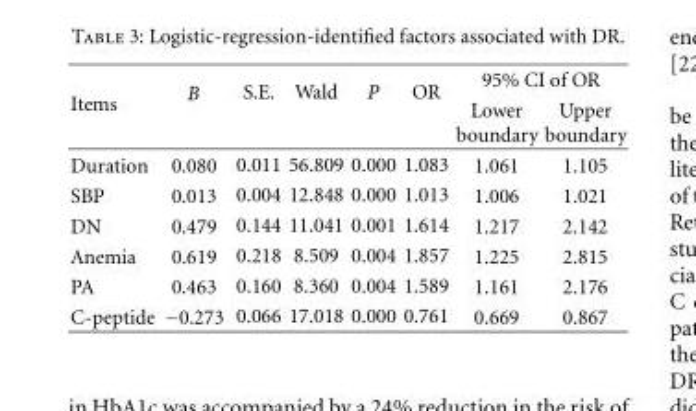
<table><thead><tr><td rowspan="2">Items</td><td rowspan="2">B</td><td rowspan="2">S.E.</td><td rowspan="2">Wald</td><td rowspan="2">P</td><td rowspan="2">OR</td><td colspan="2">95% CI of OR</td></tr><tr><td>Lower boundary</td><td>Upper boundary</td></tr></thead><tbody><tr><td>Duration</td><td>0.080</td><td>0.011</td><td>56.809</td><td>0.000</td><td>1.083</td><td>1.061</td><td>1.105</td></tr><tr><td>SBP</td><td>0.013</td><td>0.004</td><td>12.848</td><td>0.000</td><td>1.013</td><td>1.006</td><td>1.021</td></tr><tr><td>DN</td><td>0.479</td><td>0.144</td><td>11.041</td><td>0.001</td><td>1.614</td><td>1.217</td><td>2.142</td></tr><tr><td>Anemia</td><td>0.619</td><td>0.218</td><td>8.509</td><td>0.004</td><td>1.857</td><td>1.225</td><td>2.815</td></tr><tr><td>PA</td><td>0.463</td><td>0.160</td><td>8.360</td><td>0.004</td><td>1.589</td><td>1.161</td><td>2.176</td></tr><tr><td>C-peptide</td><td>−0.273</td><td>0.066</td><td>17.018</td><td>0.000</td><td>0.761</td><td>0.669</td><td>0.867</td></tr></tbody></table>